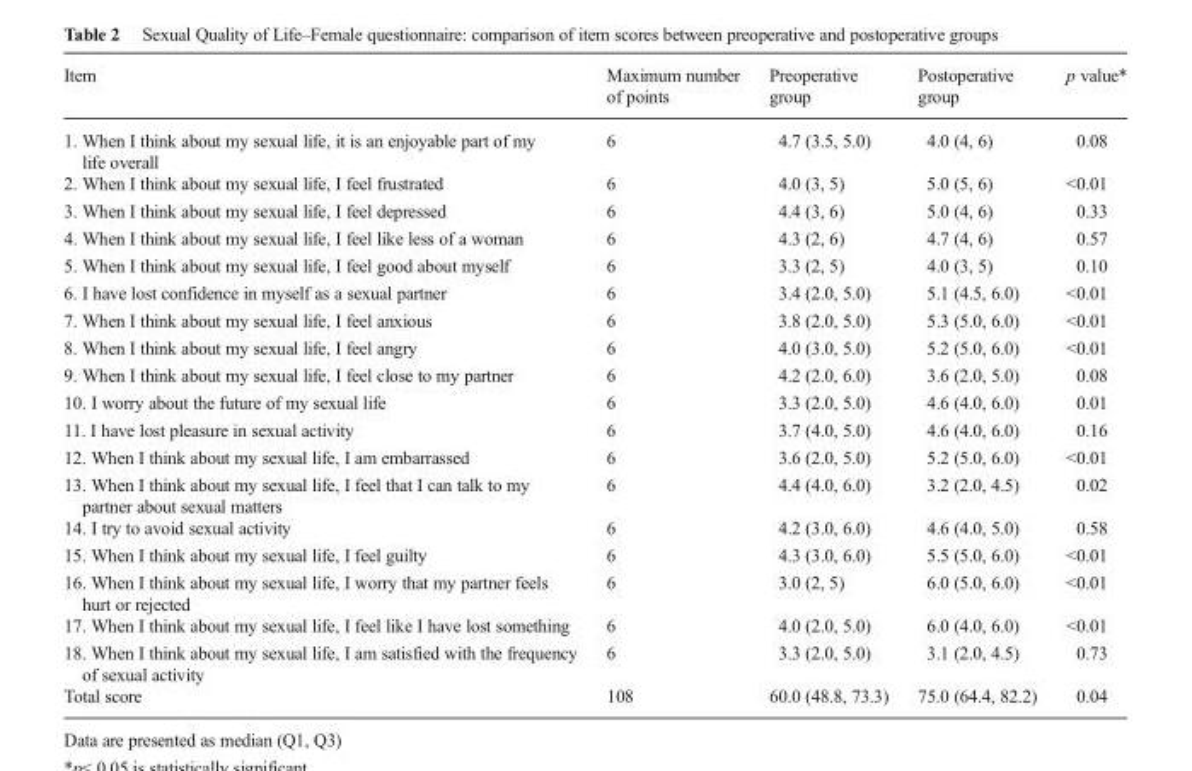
<table><thead><tr><td>Item</td><td>Maximum number of points</td><td>Preoperative group</td><td>Postoperative group</td><td>p value*</td></tr></thead><tbody><tr><td>1. When I think about my sexual life, it is an enjoyable part of my life overall</td><td>6</td><td>4.7 (3.5, 5.0)</td><td>4.0 (4, 6)</td><td>0.08</td></tr><tr><td>2. When I think about my sexual life, I feel frustrated</td><td>6</td><td>4.0 (3, 5)</td><td>5.0 (5, 6)</td><td>&lt;0.01</td></tr><tr><td>3. When I think about my sexual life, I feel depressed</td><td>6</td><td>4.4 (3, 6)</td><td>5.0 (4, 6)</td><td>0.33</td></tr><tr><td>4. When I think about my sexual life, I feel like less of a woman</td><td>6</td><td>4.3 (2, 6)</td><td>4.7 (4, 6)</td><td>0.57</td></tr><tr><td>5. When I think about my sexual life, I feel good about myself</td><td>6</td><td>3.3 (2, 5)</td><td>4.0 (3, 5)</td><td>0.10</td></tr><tr><td>6. I have lost confidence in myself as a sexual partner</td><td>6</td><td>3.4 (2.0, 5.0)</td><td>5.1 (4.5, 6.0)</td><td>&lt;0.01</td></tr><tr><td>7. When I think about my sexual life, I feel anxious</td><td>6</td><td>3.8 (2.0, 5.0)</td><td>5.3 (5.0, 6.0)</td><td>&lt;0.01</td></tr><tr><td>8. When I think about my sexual life, I feel angry</td><td>6</td><td>4.0 (3.0, 5.0)</td><td>5.2 (5.0, 6.0)</td><td>&lt;0.01</td></tr><tr><td>9. When I think about my sexual life, I feel close to my partner</td><td>6</td><td>4.2 (2.0, 6.0)</td><td>3.6 (2.0, 5.0)</td><td>0.08</td></tr><tr><td>10. I worry about the future of my sexual life</td><td>6</td><td>3.3 (2.0, 5.0)</td><td>4.6 (4.0, 6.0)</td><td>0.01</td></tr><tr><td>11. I have lost pleasure in sexual activity</td><td>6</td><td>3.7 (4.0, 5.0)</td><td>4.6 (4.0, 6.0)</td><td>0.16</td></tr><tr><td>12. When I think about my sexual life, I am embarrassed</td><td>6</td><td>3.6 (2.0, 5.0)</td><td>5.2 (5.0, 6.0)</td><td>&lt;0.01</td></tr><tr><td>13. When I think about my sexual life, I feel that I can talk to my partner about sexual matters</td><td>6</td><td>4.4 (4.0, 6.0)</td><td>3.2 (2.0, 4.5)</td><td>0.02</td></tr><tr><td>14. I try to avoid sexual activity</td><td>6</td><td>4.2 (3.0, 6.0)</td><td>4.6 (4.0, 5.0)</td><td>0.58</td></tr><tr><td>15. When I think about my sexual life, I feel guilty</td><td>6</td><td>4.3 (3.0, 6.0)</td><td>5.5 (5.0, 6.0)</td><td>&lt;0.01</td></tr><tr><td>16. When I think about my sexual life, I worry that my partner feels hurt or rejected</td><td>6</td><td>3.0 (2, 5)</td><td>6.0 (5.0, 6.0)</td><td>&lt;0.01</td></tr><tr><td>17. When I think about my sexual life, I feel like I have lost something</td><td>6</td><td>4.0 (2.0, 5.0)</td><td>6.0 (4.0, 6.0)</td><td>&lt;0.01</td></tr><tr><td>18. When I think about my sexual life, I am satisfied with the frequency of sexual activity</td><td>6</td><td>3.3 (2.0, 5.0)</td><td>3.1 (2.0, 4.5)</td><td>0.73</td></tr><tr><td>Total score</td><td>108</td><td>60.0 (48.8, 73.3)</td><td>75.0 (64.4, 82.2)</td><td>0.04</td></tr></tbody></table>